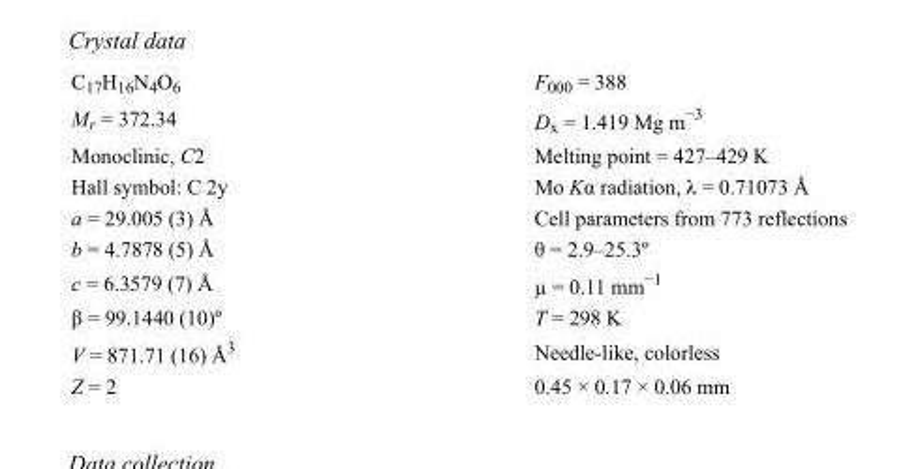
<table><tbody><tr><td>C<sub>17</sub>H<sub>16</sub>N<sub>4</sub>O<sub>6</sub></td><td>F000 = 388</td></tr><tr><td>M<sub>r</sub> = 372.34</td><td>D<sub>x</sub> = 1.419 Mg m<sup>−3</sup></td></tr><tr><td>Monoclinic, C2</td><td>Melting point = 427–429 K</td></tr><tr><td>Hall symbol: C 2y</td><td>Mo Kα radiation, λ = 0.71073 Å</td></tr><tr><td>a = 29.005 (3) Å</td><td>Cell parameters from 773 reflections</td></tr><tr><td>b = 4.7878 (5) Å</td><td>θ = 2.9–25.3º</td></tr><tr><td>c = 6.3579 (7) Å</td><td>µ = 0.11 mm<sup>−1</sup></td></tr><tr><td>β = 99.1440 (10)º</td><td>T = 298 K</td></tr><tr><td>V = 871.71 (16) Å<sup>3</sup></td><td>Needle-like, colorless</td></tr><tr><td>Z = 2</td><td>0.45 × 0.17 × 0.06 mm</td></tr></tbody></table>